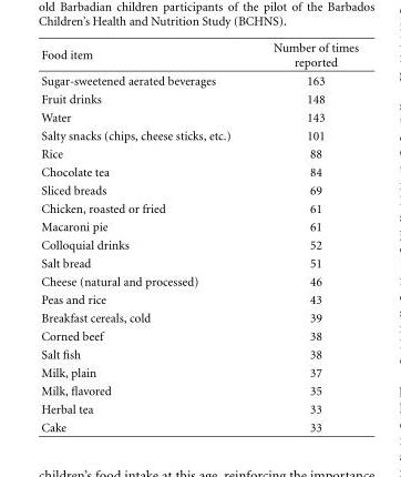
<table><thead><tr><td>Food item</td><td>Number of times reported</td></tr></thead><tbody><tr><td>Sugar-sweetened aerated beverages</td><td>163</td></tr><tr><td>Fruit drinks</td><td>148</td></tr><tr><td>Water</td><td>143</td></tr><tr><td>Salty snacks (chips, cheese sticks, etc.)</td><td>101</td></tr><tr><td>Rice</td><td>88</td></tr><tr><td>Chocolate tea</td><td>84</td></tr><tr><td>Sliced breads</td><td>69</td></tr><tr><td>Chicken, roasted or fried</td><td>61</td></tr><tr><td>Macaroni pie</td><td>61</td></tr><tr><td>Colloquial drinks</td><td>52</td></tr><tr><td>Salt bread</td><td>51</td></tr><tr><td>Cheese (natural and processed)</td><td>46</td></tr><tr><td>Peas and rice</td><td>43</td></tr><tr><td>Breakfast cereals, cold</td><td>39</td></tr><tr><td>Corned beef</td><td>38</td></tr><tr><td>Salt fish</td><td>38</td></tr><tr><td>Milk, plain</td><td>37</td></tr><tr><td>Milk, flavored</td><td>35</td></tr><tr><td>Herbal tea</td><td>33</td></tr><tr><td>Cake</td><td>33</td></tr></tbody></table>